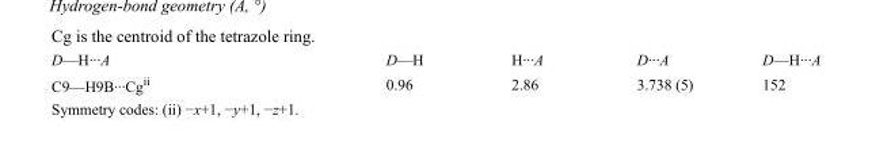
<table><tbody><tr><td>D—H···A</td><td>D—H</td><td>H···A</td><td>D···A</td><td>D—H···A</td></tr><tr><td>C9—H9B···Cg<sup>ii</sup></td><td>0.96</td><td>2.86</td><td>3.738 (5)</td><td>152</td></tr></tbody></table>